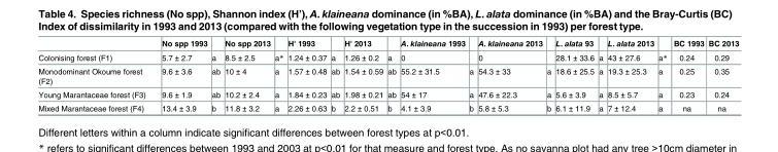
<table><thead><tr><td></td><td>No spp 1993</td><td></td><td>No spp 2013</td><td></td><td>H&#x27; 1993</td><td></td><td>H&#x27; 2013</td><td></td><td>A. klaineana 1993</td><td></td><td>A. klaineana 2013</td><td></td><td>L. alata 93</td><td></td><td>L. alata 2013</td><td></td><td>BC 1993</td><td>BC 2013</td></tr></thead><tbody><tr><td>Colonising forest (F1)</td><td>5.7 ± 2.7</td><td>a</td><td>8.5 ± 2.5</td><td>a*</td><td>1.24 ± 0.37</td><td>a</td><td>1.26 ± 0.2</td><td>a</td><td>0</td><td></td><td>0</td><td></td><td>28.1 ± 33.6</td><td>a</td><td>43 ± 27.6</td><td>a*</td><td>0.24</td><td>0.29</td></tr><tr><td>Monodominant Okoume forest (F2)</td><td>9.6 ± 3.6</td><td>ab</td><td>10 ± 4</td><td>a</td><td>1.57 ± 0.48</td><td>ab</td><td>1.54 ± 0.59</td><td>ab</td><td>55.2 ± 31.5</td><td>a</td><td>54.3 ± 33</td><td>a</td><td>18.6 ± 25.5</td><td>a</td><td>19.3 ± 25.3</td><td>a</td><td>0.25</td><td>0.35</td></tr><tr><td>Young Marantaceae forest (F3)</td><td>9.6 ± 1.9</td><td>ab</td><td>10.2 ± 2.4</td><td>a</td><td>1.84 ± 0.23</td><td>ab</td><td>1.98 ± 0.21</td><td>ab</td><td>54 ± 17</td><td>a</td><td>47.6 ± 22.3</td><td>a</td><td>5.6 ± 3.9</td><td>a</td><td>8.5 ± 5.7</td><td>a</td><td>0.23</td><td>0.24</td></tr><tr><td>Mixed Marantaceae forest (F4)</td><td>13.4 ± 3.9</td><td>b</td><td>11.8 ± 3.2</td><td>a</td><td>2.26 ± 0.63</td><td>b</td><td>2.2 ± 0.51</td><td>b</td><td>4.1 ± 3.9</td><td>b</td><td>5.8 ± 5.3</td><td>b</td><td>6.1 ± 11.9</td><td>a</td><td>7 ± 12.4</td><td>a</td><td>na</td><td>na</td></tr></tbody></table>